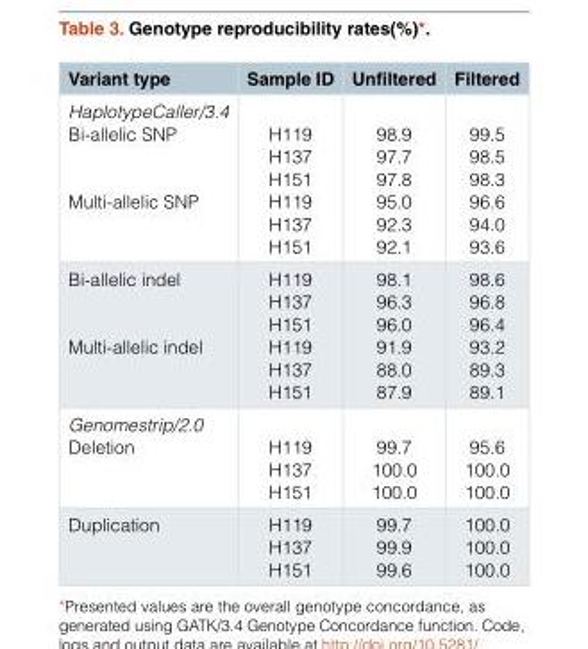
<table><thead><tr><td>Variant type</td><td>Sample ID</td><td>Unfiltered</td><td>Filtered</td></tr></thead><tbody><tr><td>HaplotypeCaller/3.4 Bi-allelic SNP Multi-allelic SNP</td><td>H119 H137 H151 H119 H137 H151</td><td>98.9 97.7 97.8 95.0 92.3 92.1</td><td>99.5 98.5 98.3 96.6 94.0 93.6</td></tr><tr><td>Bi-allelic indel Multi-allelic indel</td><td>H119 H137 H151 H119 H137 H151</td><td>98.1 96.3 96.0 91.9 88.0 87.9</td><td>98.6 96.8 96.4 93.2 89.3 89.1</td></tr><tr><td>Genomestrip/2.0 Deletion</td><td>H119 H137 H151</td><td>99.7 100.0 100.0</td><td>95.6 100.0 100.0</td></tr><tr><td>Duplication</td><td>H119 H137 H151</td><td>99.7 99.9 99.6</td><td>100.0 100.0 100.0</td></tr></tbody></table>